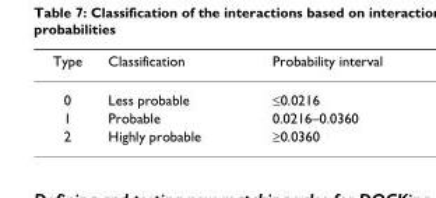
<table><thead><tr><td>Type</td><td>Classification</td><td>Probability interval</td></tr></thead><tbody><tr><td>0</td><td>Less probable</td><td>≤0.0216</td></tr><tr><td>1</td><td>Probable</td><td>0.0216–0.0360</td></tr><tr><td>2</td><td>Highly probable</td><td>≥0.0360</td></tr></tbody></table>